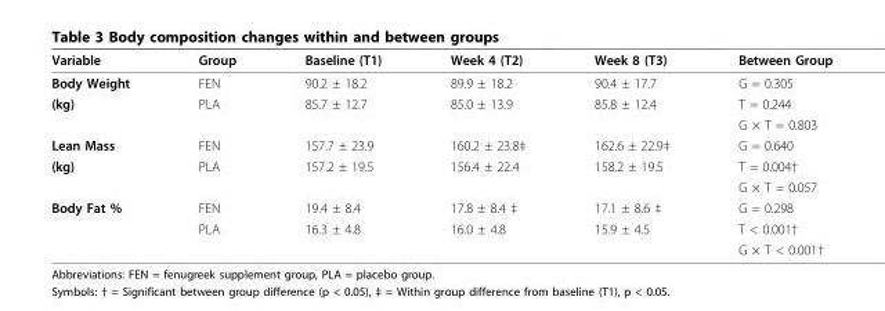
<table><thead><tr><td>Variable</td><td>Group</td><td>Baseline (T1)</td><td>Week 4 (T2)</td><td>Week 8 (T3)</td><td>Between Group</td></tr></thead><tbody><tr><td>Body Weight</td><td>FEN</td><td>90.2 ± 18.2</td><td>89.9 ± 18.2</td><td>90.4 ± 17.7</td><td>G = 0.305</td></tr><tr><td rowspan="2">(kg)</td><td>PLA</td><td>85.7 ± 12.7</td><td>85.0 ± 13.9</td><td>85.8 ± 12.4</td><td>T = 0.244</td></tr><tr><td></td><td></td><td></td><td></td><td>G × T = 0.803</td></tr><tr><td>Lean Mass</td><td>FEN</td><td>157.7 ± 23.9</td><td>160.2 ± 23.8‡</td><td>162.6 ± 22.9‡</td><td>G = 0.640</td></tr><tr><td rowspan="2">(kg)</td><td>PLA</td><td>157.2 ± 19.5</td><td>156.4 ± 22.4</td><td>158.2 ± 19.5</td><td>T = 0.004†</td></tr><tr><td></td><td></td><td></td><td></td><td>G × T = 0.057</td></tr><tr><td rowspan="3">Body Fat %</td><td>FEN</td><td>19.4 ± 8.4</td><td>17.8 ± 8.4 ‡</td><td>17.1 ± 8.6 ‡</td><td>G = 0.298</td></tr><tr><td>PLA</td><td>16.3 ± 4.8</td><td>16.0 ± 4.8</td><td>15.9 ± 4.5</td><td>T &lt; 0.001†</td></tr><tr><td></td><td></td><td></td><td></td><td>G × T &lt; 0.001†</td></tr></tbody></table>